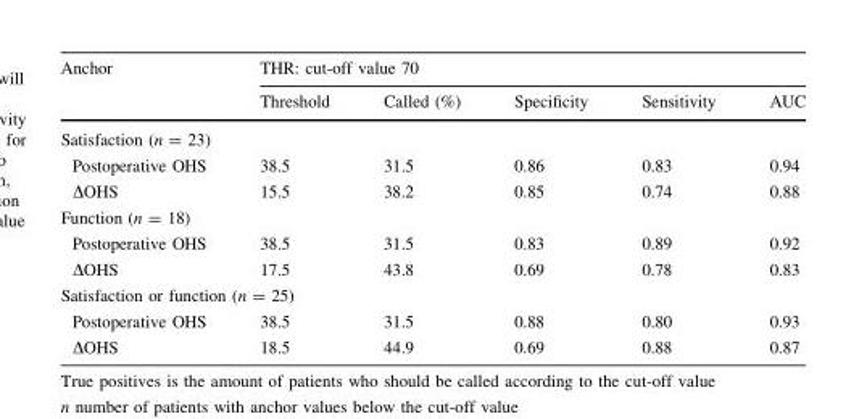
<table><thead><tr><td rowspan="2">Anchor</td><td colspan="5">THR: cut-off value 70</td></tr><tr><td>Threshold</td><td>Called (%)</td><td>Specificity</td><td>Sensitivity</td><td>AUC</td></tr></thead><tbody><tr><td colspan="6">Satisfaction (n = 23)</td></tr><tr><td>Postoperative OHS</td><td>38.5</td><td>31.5</td><td>0.86</td><td>0.83</td><td>0.94</td></tr><tr><td>ΔOHS</td><td>15.5</td><td>38.2</td><td>0.85</td><td>0.74</td><td>0.88</td></tr><tr><td colspan="6">Function (n = 18)</td></tr><tr><td>Postoperative OHS</td><td>38.5</td><td>31.5</td><td>0.83</td><td>0.89</td><td>0.92</td></tr><tr><td>ΔOHS</td><td>17.5</td><td>43.8</td><td>0.69</td><td>0.78</td><td>0.83</td></tr><tr><td colspan="6">Satisfaction or function (n = 25)</td></tr><tr><td>Postoperative OHS</td><td>38.5</td><td>31.5</td><td>0.88</td><td>0.80</td><td>0.93</td></tr><tr><td>ΔOHS</td><td>18.5</td><td>44.9</td><td>0.69</td><td>0.88</td><td>0.87</td></tr></tbody></table>